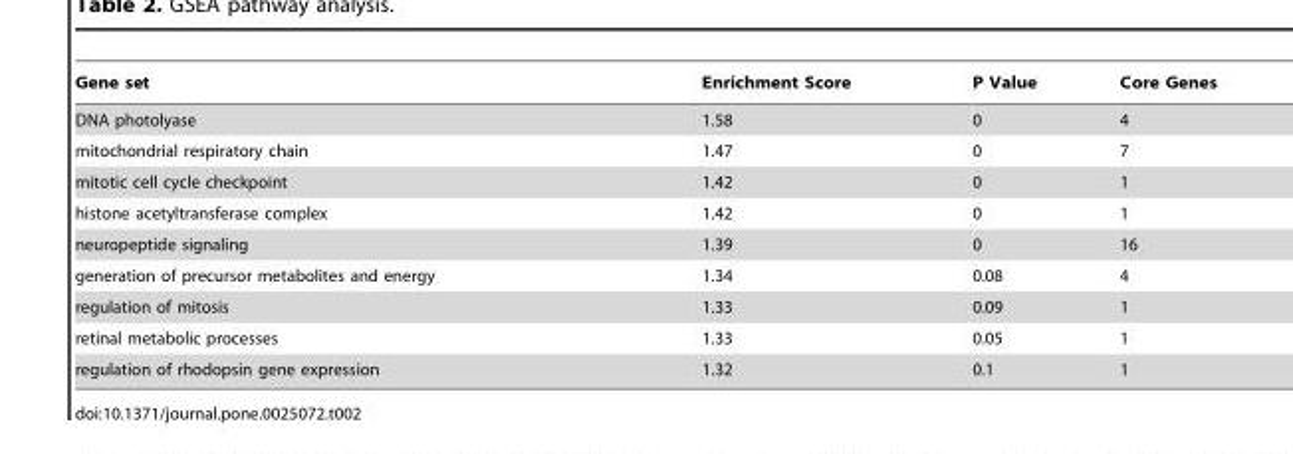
<table><thead><tr><td>Gene set</td><td>Enrichment Score</td><td>P Value</td><td>Core Genes</td></tr></thead><tbody><tr><td>DNA photolyase</td><td>1.58</td><td>0</td><td>4</td></tr><tr><td>mitochondrial respiratory chain</td><td>1.47</td><td>0</td><td>7</td></tr><tr><td>mitotic cell cycle checkpoint</td><td>1.42</td><td>0</td><td>1</td></tr><tr><td>histone acetyltransferase complex</td><td>1.42</td><td>0</td><td>1</td></tr><tr><td>neuropeptide signaling</td><td>1.39</td><td>0</td><td>16</td></tr><tr><td>generation of precursor metabolites and energy</td><td>1.34</td><td>0.08</td><td>4</td></tr><tr><td>regulation of mitosis</td><td>1.33</td><td>0.09</td><td>1</td></tr><tr><td>retinal metabolic processes</td><td>1.33</td><td>0.05</td><td>1</td></tr><tr><td>regulation of rhodopsin gene expression</td><td>1.32</td><td>0.1</td><td>1</td></tr></tbody></table>